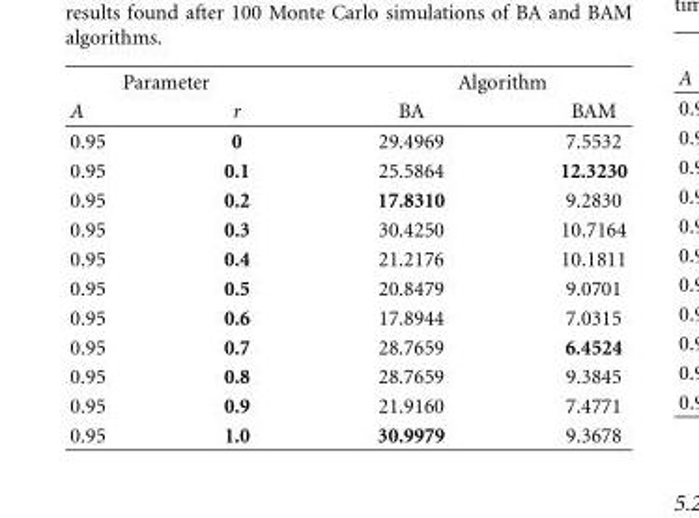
<table><thead><tr><td colspan="2">Parameter</td><td colspan="2">Algorithm</td></tr><tr><td>A</td><td>r</td><td>BA</td><td>BAM</td></tr></thead><tbody><tr><td>0.95</td><td>0</td><td>29.4969</td><td>7.5532</td></tr><tr><td>0.95</td><td>0.1</td><td>25.5864</td><td>12.3230</td></tr><tr><td>0.95</td><td>0.2</td><td>17.8310</td><td>9.2830</td></tr><tr><td>0.95</td><td>0.3</td><td>30.4250</td><td>10.7164</td></tr><tr><td>0.95</td><td>0.4</td><td>21.2176</td><td>10.1811</td></tr><tr><td>0.95</td><td>0.5</td><td>20.8479</td><td>9.0701</td></tr><tr><td>0.95</td><td>0.6</td><td>17.8944</td><td>7.0315</td></tr><tr><td>0.95</td><td>0.7</td><td>28.7659</td><td>6.4524</td></tr><tr><td>0.95</td><td>0.8</td><td>28.7659</td><td>9.3845</td></tr><tr><td>0.95</td><td>0.9</td><td>21.9160</td><td>7.4771</td></tr><tr><td>0.95</td><td>1.0</td><td>30.9979</td><td>9.3678</td></tr></tbody></table>